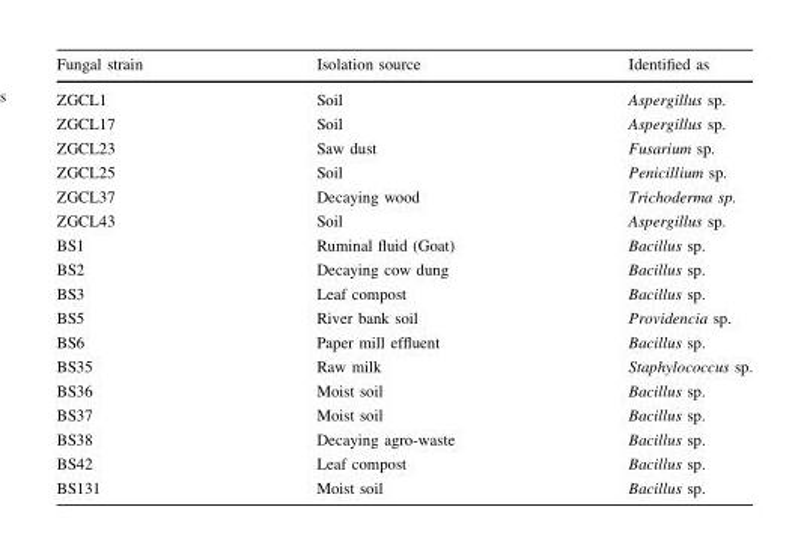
<table><thead><tr><td>Fungal strain</td><td>Isolation source</td><td>Identified as</td></tr></thead><tbody><tr><td>ZGCL1</td><td>Soil</td><td>Aspergillus sp.</td></tr><tr><td>ZGCL17</td><td>Soil</td><td>Aspergillus sp.</td></tr><tr><td>ZGCL23</td><td>Saw dust</td><td>Fusarium sp.</td></tr><tr><td>ZGCL25</td><td>Soil</td><td>Penicillium sp.</td></tr><tr><td>ZGCL37</td><td>Decaying wood</td><td>Trichoderma sp.</td></tr><tr><td>ZGCL43</td><td>Soil</td><td>Aspergillus sp.</td></tr><tr><td>BS1</td><td>Ruminal fluid (Goat)</td><td>Bacillus sp.</td></tr><tr><td>BS2</td><td>Decaying cow dung</td><td>Bacillus sp.</td></tr><tr><td>BS3</td><td>Leaf compost</td><td>Bacillus sp.</td></tr><tr><td>BS5</td><td>River bank soil</td><td>Providencia sp.</td></tr><tr><td>BS6</td><td>Paper mill effluent</td><td>Bacillus sp.</td></tr><tr><td>BS35</td><td>Raw milk</td><td>Staphylococcus sp.</td></tr><tr><td>BS36</td><td>Moist soil</td><td>Bacillus sp.</td></tr><tr><td>BS37</td><td>Moist soil</td><td>Bacillus sp.</td></tr><tr><td>BS38</td><td>Decaying agro-waste</td><td>Bacillus sp.</td></tr><tr><td>BS42</td><td>Leaf compost</td><td>Bacillus sp.</td></tr><tr><td>BS131</td><td>Moist soil</td><td>Bacillus sp.</td></tr></tbody></table>